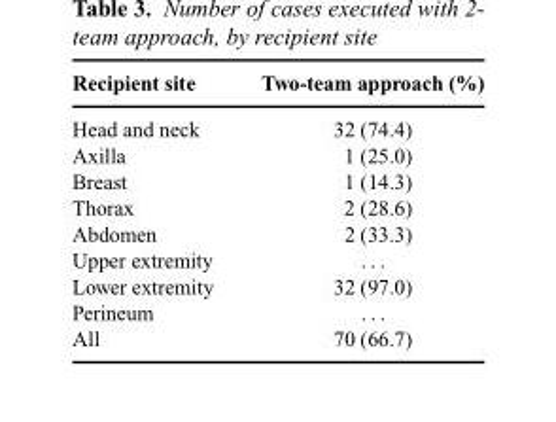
<table><thead><tr><td>Recipient site</td><td>Two-team approach (%)</td></tr></thead><tbody><tr><td>Head and neck</td><td>32 (74.4)</td></tr><tr><td>Axilla</td><td>1 (25.0)</td></tr><tr><td>Breast</td><td>1 (14.3)</td></tr><tr><td>Thorax</td><td>2 (28.6)</td></tr><tr><td>Abdomen</td><td>2 (33.3)</td></tr><tr><td>Upper extremity</td><td>. . .</td></tr><tr><td>Lower extremity</td><td>32 (97.0)</td></tr><tr><td>Perineum</td><td>. . .</td></tr><tr><td>All</td><td>70 (66.7)</td></tr></tbody></table>